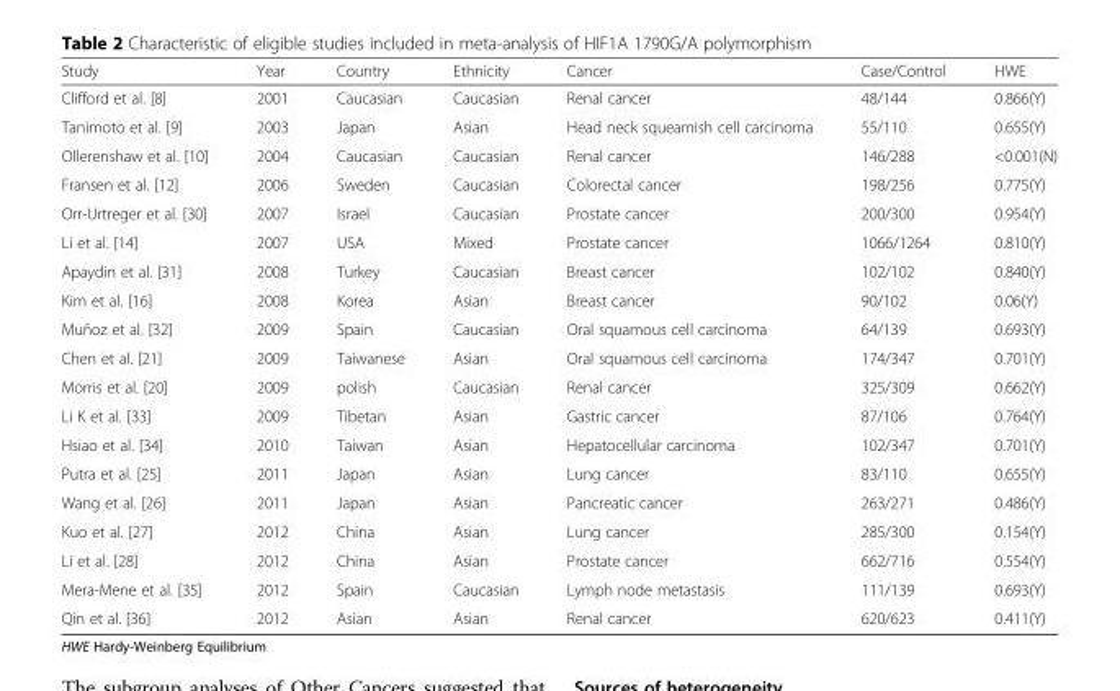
<table><thead><tr><td>Study</td><td>Year</td><td>Country</td><td>Ethnicity</td><td>Cancer</td><td>Case/Control</td><td>HWE</td></tr></thead><tbody><tr><td>Clifford et al. [8]</td><td>2001</td><td>Caucasian</td><td>Caucasian</td><td>Renal cancer</td><td>48/144</td><td>0.866(Y)</td></tr><tr><td>Tanimoto et al. [9]</td><td>2003</td><td>Japan</td><td>Asian</td><td>Head neck squeamish cell carcinoma</td><td>55/110</td><td>0.655(Y)</td></tr><tr><td>Ollerenshaw et al. [10]</td><td>2004</td><td>Caucasian</td><td>Caucasian</td><td>Renal cancer</td><td>146/288</td><td>&lt;0.001(N)</td></tr><tr><td>Fransen et al. [12]</td><td>2006</td><td>Sweden</td><td>Caucasian</td><td>Colorectal cancer</td><td>198/256</td><td>0.775(Y)</td></tr><tr><td>Orr-Urtreger et al. [30]</td><td>2007</td><td>Israel</td><td>Caucasian</td><td>Prostate cancer</td><td>200/300</td><td>0.954(Y)</td></tr><tr><td>Li et al. [14]</td><td>2007</td><td>USA</td><td>Mixed</td><td>Prostate cancer</td><td>1066/1264</td><td>0.810(Y)</td></tr><tr><td>Apaydin et al. [31]</td><td>2008</td><td>Turkey</td><td>Caucasian</td><td>Breast cancer</td><td>102/102</td><td>0.840(Y)</td></tr><tr><td>Kim et al. [16]</td><td>2008</td><td>Korea</td><td>Asian</td><td>Breast cancer</td><td>90/102</td><td>0.06(Y)</td></tr><tr><td>Muñoz et al. [32]</td><td>2009</td><td>Spain</td><td>Caucasian</td><td>Oral squamous cell carcinoma</td><td>64/139</td><td>0.693(Y)</td></tr><tr><td>Chen et al. [21]</td><td>2009</td><td>Taiwanese</td><td>Asian</td><td>Oral squamous cell carcinoma</td><td>174/347</td><td>0.701(Y)</td></tr><tr><td>Morris et al. [20]</td><td>2009</td><td>polish</td><td>Caucasian</td><td>Renal cancer</td><td>325/309</td><td>0.662(Y)</td></tr><tr><td>Li K et al. [33]</td><td>2009</td><td>Tibetan</td><td>Asian</td><td>Gastric cancer</td><td>87/106</td><td>0.764(Y)</td></tr><tr><td>Hsiao et al. [34]</td><td>2010</td><td>Taiwan</td><td>Asian</td><td>Hepatocellular carcinoma</td><td>102/347</td><td>0.701(Y)</td></tr><tr><td>Putra et al. [25]</td><td>2011</td><td>Japan</td><td>Asian</td><td>Lung cancer</td><td>83/110</td><td>0.655(Y)</td></tr><tr><td>Wang et al. [26]</td><td>2011</td><td>Japan</td><td>Asian</td><td>Pancreatic cancer</td><td>263/271</td><td>0.486(Y)</td></tr><tr><td>Kuo et al. [27]</td><td>2012</td><td>China</td><td>Asian</td><td>Lung cancer</td><td>285/300</td><td>0.154(Y)</td></tr><tr><td>Li et al. [28]</td><td>2012</td><td>China</td><td>Asian</td><td>Prostate cancer</td><td>662/716</td><td>0.554(Y)</td></tr><tr><td>Mera-Mene et al. [35]</td><td>2012</td><td>Spain</td><td>Caucasian</td><td>Lymph node metastasis</td><td>111/139</td><td>0.693(Y)</td></tr><tr><td>Qin et al. [36]</td><td>2012</td><td>Asian</td><td>Asian</td><td>Renal cancer</td><td>620/623</td><td>0.411(Y)</td></tr></tbody></table>